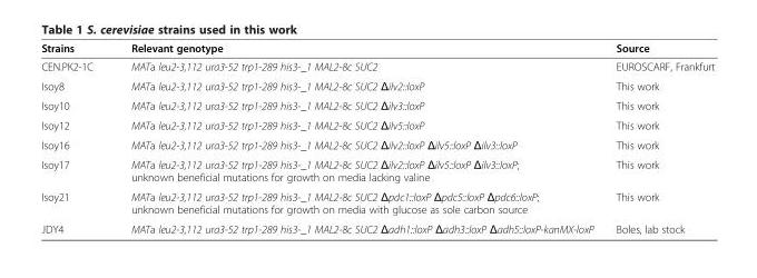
<table><thead><tr><td>Strains</td><td>Relevant genotype</td><td>Source</td></tr></thead><tbody><tr><td>CEN.PK2-1C</td><td>MATa leu2-3,112 ura3-52 trp1-289 his3-_1 MAL2-8c SUC2</td><td>EUROSCARF, Frankfurt</td></tr><tr><td>Isoy8</td><td>MATa leu2-3,112 ura3-52 trp1-289 his3-_1 MAL2-8c SUC2 Δilv2::loxP</td><td>This work</td></tr><tr><td>Isoy10</td><td>MATa leu2-3,112 ura3-52 trp1-289 his3-_1 MAL2-8c SUC2 Δilv3::loxP</td><td>This work</td></tr><tr><td>Isoy12</td><td>MATa leu2-3,112 ura3-52 trp1-289 his3-_1 MAL2-8c SUC2 Δilv5::loxP</td><td>This work</td></tr><tr><td>Isoy16</td><td>MATa leu2-3,112 ura3-52 trp1-289 his3-_1 MAL2-8c SUC2 Δilv2::loxP Δilv5::loxP Δilv3::loxP</td><td>This work</td></tr><tr><td>Isoy17</td><td>MATa leu2-3,112 ura3-52 trp1-289 his3-_1 MAL2-8c SUC2 Δilv2::loxP Δilv5::loxP Δilv3::loxP; unknown beneficial mutations for growth on media lacking valine</td><td>This work</td></tr><tr><td>Isoy21</td><td>MATa leu2-3,112 ura3-52 trp1-289 his3-_1 MAL2-8c SUC2 Δpdc1::loxP Δpdc5::loxP Δpdc6::loxP; unknown beneficial mutations for growth on media with glucose as sole carbon source</td><td>This work</td></tr><tr><td>JDY4</td><td>MATa leu2-3,112 ura3-52 trp1-289 his3-_1 MAL2-8c SUC2 Δadh1::loxP Δadh3::loxP Δadh5::loxP-kanMX-loxP</td><td>Boles, lab stock</td></tr></tbody></table>